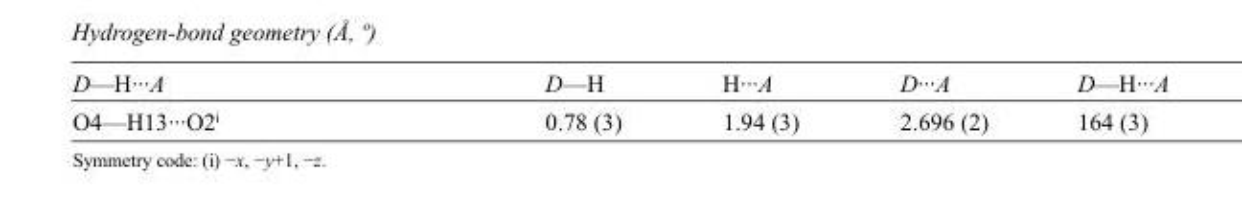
<table><tbody><tr><td>D—H···A</td><td>D—H</td><td>H···A</td><td>D···A</td><td>D—H···A</td></tr><tr><td>O4—H13···O2<sup>i</sup></td><td>0.78 (3)</td><td>1.94 (3)</td><td>2.696 (2)</td><td>164 (3)</td></tr></tbody></table>